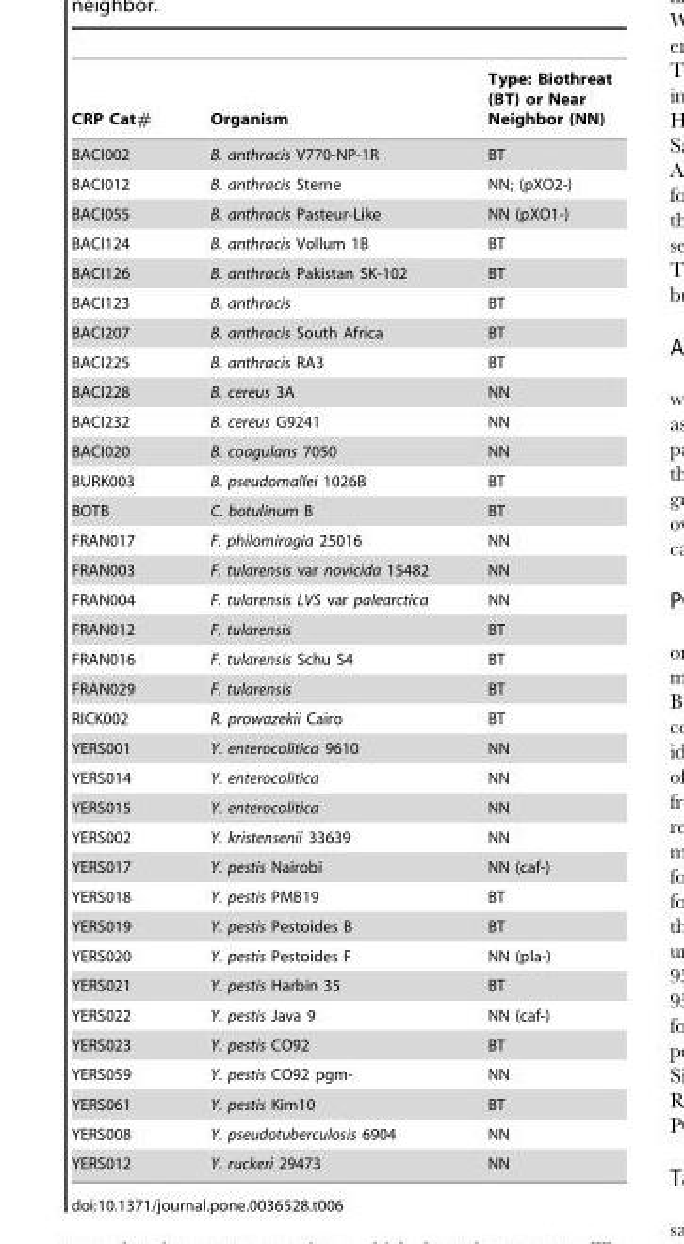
<table><thead><tr><td>CRP Cat#</td><td>Organism</td><td>Type: Biothreat (BT) or Near Neighbor (NN)</td></tr></thead><tbody><tr><td>BACI002</td><td>B. anthracis V770-NP-1R</td><td>BT</td></tr><tr><td>BACI012</td><td>B. anthracis Sterne</td><td>NN; (pXO2-)</td></tr><tr><td>BACI055</td><td>B. anthracis Pasteur-Like</td><td>NN (pXO1-)</td></tr><tr><td>BACI124</td><td>B. anthracis Vollum 1B</td><td>BT</td></tr><tr><td>BACI126</td><td>B. anthracis Pakistan SK-102</td><td>BT</td></tr><tr><td>BACI123</td><td>B. anthracis</td><td>BT</td></tr><tr><td>BACI207</td><td>B. anthracis South Africa</td><td>BT</td></tr><tr><td>BACI225</td><td>B. anthracis RA3</td><td>BT</td></tr><tr><td>BACI228</td><td>B. cereus 3A</td><td>NN</td></tr><tr><td>BACI232</td><td>B. cereus G9241</td><td>NN</td></tr><tr><td>BACI020</td><td>B. coagulans 7050</td><td>NN</td></tr><tr><td>BURK003</td><td>B. pseudomallei 1026B</td><td>BT</td></tr><tr><td>BOTB</td><td>C. botulinum B</td><td>BT</td></tr><tr><td>FRAN017</td><td>F. philomiragia 25016</td><td>NN</td></tr><tr><td>FRAN003</td><td>F. tularensis var novicida 15482</td><td>NN</td></tr><tr><td>FRAN004</td><td>F. tularensis LVS var palearctica</td><td>NN</td></tr><tr><td>FRAN012</td><td>F. tularensis</td><td>BT</td></tr><tr><td>FRAN016</td><td>F. tularensis Schu S4</td><td>BT</td></tr><tr><td>FRAN029</td><td>F. tularensis</td><td>BT</td></tr><tr><td>RICK002</td><td>R. prowazekii Cairo</td><td>BT</td></tr><tr><td>YERS001</td><td>Y. enterocolitica 9610</td><td>NN</td></tr><tr><td>YERS014</td><td>Y. enterocolitica</td><td>NN</td></tr><tr><td>YERS015</td><td>Y. enterocolitica</td><td>NN</td></tr><tr><td>YERS002</td><td>Y. kristensenii 33639</td><td>NN</td></tr><tr><td>YERS017</td><td>Y. pestis Nairobi</td><td>NN (caf-)</td></tr><tr><td>YERS018</td><td>Y. pestis PMB19</td><td>BT</td></tr><tr><td>YERS019</td><td>Y. pestis Pestoides B</td><td>BT</td></tr><tr><td>YERS020</td><td>Y. pestis Pestoides F</td><td>NN (pla-)</td></tr><tr><td>YERS021</td><td>Y. pestis Harbin 35</td><td>BT</td></tr><tr><td>YERS022</td><td>Y. pestis Java 9</td><td>NN (caf-)</td></tr><tr><td>YERS023</td><td>Y. pestis CO92</td><td>BT</td></tr><tr><td>YERS059</td><td>Y. pestis CO92 pgm-</td><td>NN</td></tr><tr><td>YERS061</td><td>Y. pestis Kim10</td><td>BT</td></tr><tr><td>YERS008</td><td>Y. pseudotuberculosis 6904</td><td>NN</td></tr><tr><td>YERS012</td><td>Y. ruckeri 29473</td><td>NN</td></tr></tbody></table>